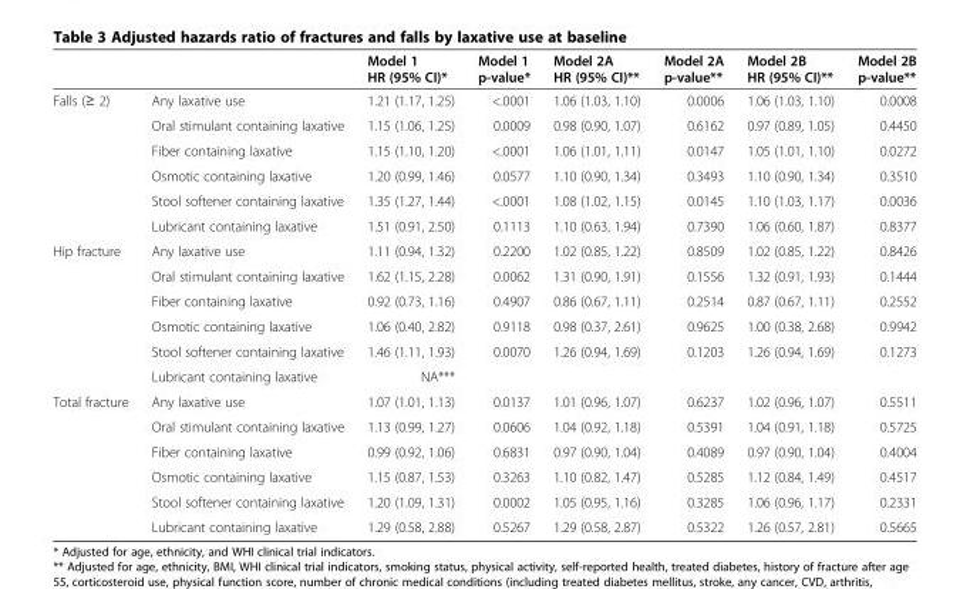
<table><thead><tr><td></td><td></td><td>Model 1 HR (95% CI)*</td><td>Model 1 p-value*</td><td>Model 2A HR (95% CI)**</td><td>Model 2A p-value**</td><td>Model 2B HR (95% CI)**</td><td>Model 2B p-value**</td></tr></thead><tbody><tr><td rowspan="6">Falls (≥ 2)</td><td>Any laxative use</td><td>1.21 (1.17, 1.25)</td><td>&lt;.0001</td><td>1.06 (1.03, 1.10)</td><td>0.0006</td><td>1.06 (1.03, 1.10)</td><td>0.0008</td></tr><tr><td>Oral stimulant containing laxative</td><td>1.15 (1.06, 1.25)</td><td>0.0009</td><td>0.98 (0.90, 1.07)</td><td>0.6162</td><td>0.97 (0.89, 1.05)</td><td>0.4450</td></tr><tr><td>Fiber containing laxative</td><td>1.15 (1.10, 1.20)</td><td>&lt;.0001</td><td>1.06 (1.01, 1.11)</td><td>0.0147</td><td>1.05 (1.01, 1.10)</td><td>0.0272</td></tr><tr><td>Osmotic containing laxative</td><td>1.20 (0.99, 1.46)</td><td>0.0577</td><td>1.10 (0.90, 1.34)</td><td>0.3493</td><td>1.10 (0.90, 1.34)</td><td>0.3510</td></tr><tr><td>Stool softener containing laxative</td><td>1.35 (1.27, 1.44)</td><td>&lt;.0001</td><td>1.08 (1.02, 1.15)</td><td>0.0145</td><td>1.10 (1.03, 1.17)</td><td>0.0036</td></tr><tr><td>Lubricant containing laxative</td><td>1.51 (0.91, 2.50)</td><td>0.1113</td><td>1.10 (0.63, 1.94)</td><td>0.7390</td><td>1.06 (0.60, 1.87)</td><td>0.8377</td></tr><tr><td rowspan="6">Hip fracture</td><td>Any laxative use</td><td>1.11 (0.94, 1.32)</td><td>0.2200</td><td>1.02 (0.85, 1.22)</td><td>0.8509</td><td>1.02 (0.85, 1.22)</td><td>0.8426</td></tr><tr><td>Oral stimulant containing laxative</td><td>1.62 (1.15, 2.28)</td><td>0.0062</td><td>1.31 (0.90, 1.91)</td><td>0.1556</td><td>1.32 (0.91, 1.93)</td><td>0.1444</td></tr><tr><td>Fiber containing laxative</td><td>0.92 (0.73, 1.16)</td><td>0.4907</td><td>0.86 (0.67, 1.11)</td><td>0.2514</td><td>0.87 (0.67, 1.11)</td><td>0.2552</td></tr><tr><td>Osmotic containing laxative</td><td>1.06 (0.40, 2.82)</td><td>0.9118</td><td>0.98 (0.37, 2.61)</td><td>0.9625</td><td>1.00 (0.38, 2.68)</td><td>0.9942</td></tr><tr><td>Stool softener containing laxative</td><td>1.46 (1.11, 1.93)</td><td>0.0070</td><td>1.26 (0.94, 1.69)</td><td>0.1203</td><td>1.26 (0.94, 1.69)</td><td>0.1273</td></tr><tr><td>Lubricant containing laxative</td><td>NA***</td><td></td><td></td><td></td><td></td><td></td></tr><tr><td rowspan="6">Total fracture</td><td>Any laxative use</td><td>1.07 (1.01, 1.13)</td><td>0.0137</td><td>1.01 (0.96, 1.07)</td><td>0.6237</td><td>1.02 (0.96, 1.07)</td><td>0.5511</td></tr><tr><td>Oral stimulant containing laxative</td><td>1.13 (0.99, 1.27)</td><td>0.0606</td><td>1.04 (0.92, 1.18)</td><td>0.5391</td><td>1.04 (0.91, 1.18)</td><td>0.5725</td></tr><tr><td>Fiber containing laxative</td><td>0.99 (0.92, 1.06)</td><td>0.6831</td><td>0.97 (0.90, 1.04)</td><td>0.4089</td><td>0.97 (0.90, 1.04)</td><td>0.4004</td></tr><tr><td>Osmotic containing laxative</td><td>1.15 (0.87, 1.53)</td><td>0.3263</td><td>1.10 (0.82, 1.47)</td><td>0.5285</td><td>1.12 (0.84, 1.49)</td><td>0.4517</td></tr><tr><td>Stool softener containing laxative</td><td>1.20 (1.09, 1.31)</td><td>0.0002</td><td>1.05 (0.95, 1.16)</td><td>0.3285</td><td>1.06 (0.96, 1.17)</td><td>0.2331</td></tr><tr><td>Lubricant containing laxative</td><td>1.29 (0.58, 2.88)</td><td>0.5267</td><td>1.29 (0.58, 2.87)</td><td>0.5322</td><td>1.26 (0.57, 2.81)</td><td>0.5665</td></tr></tbody></table>